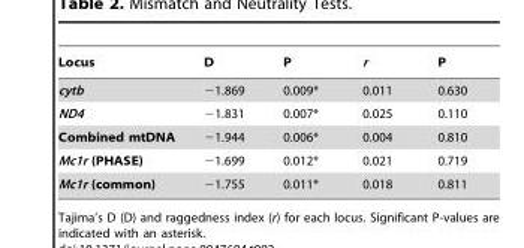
<table><thead><tr><td>Locus</td><td>D</td><td>P</td><td>r</td><td>P</td></tr></thead><tbody><tr><td>cytb</td><td>−1.869</td><td>0.009*</td><td>0.011</td><td>0.630</td></tr><tr><td>ND4</td><td>−1.831</td><td>0.007*</td><td>0.025</td><td>0.110</td></tr><tr><td>Combined mtDNA</td><td>−1.944</td><td>0.006*</td><td>0.004</td><td>0.810</td></tr><tr><td>Mc1r (PHASE)</td><td>−1.699</td><td>0.012*</td><td>0.021</td><td>0.719</td></tr><tr><td>Mc1r (common)</td><td>−1.755</td><td>0.011*</td><td>0.018</td><td>0.811</td></tr></tbody></table>